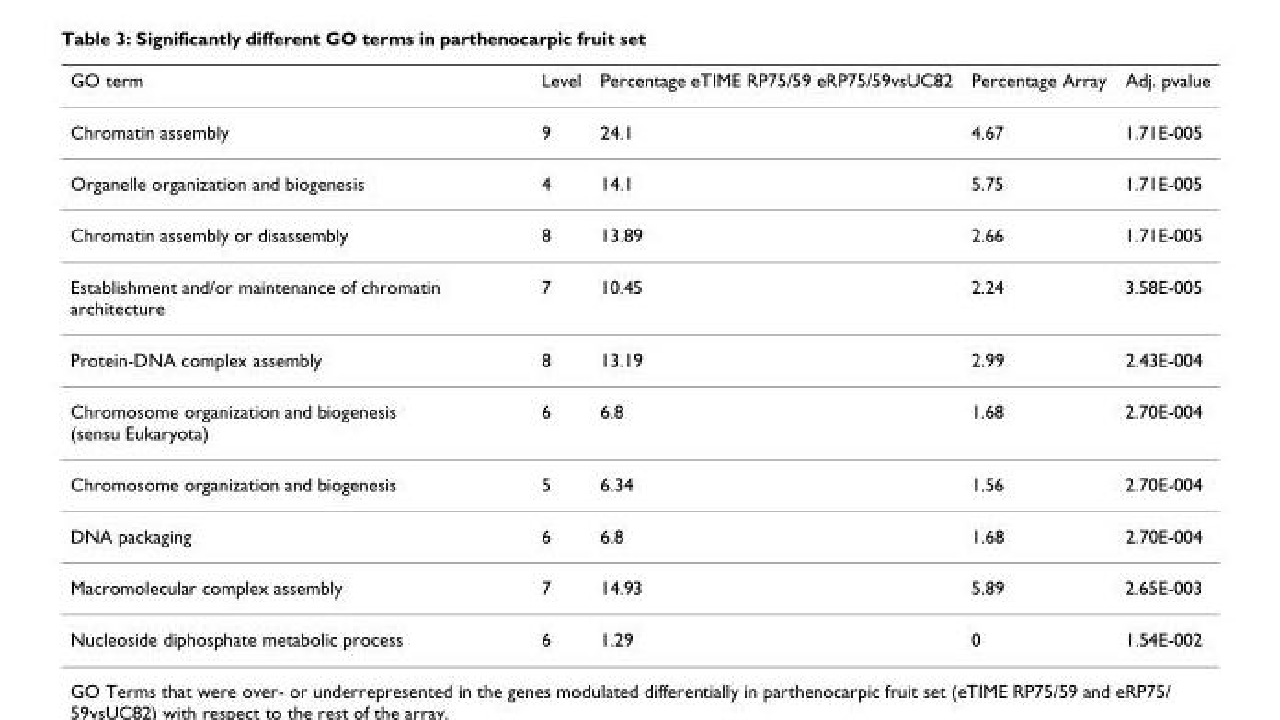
<table><thead><tr><td>GO term</td><td>Level</td><td>Percentage eTIME RP75/59 eRP75/59vsUC82</td><td>Percentage Array</td><td>Adj. pvalue</td></tr></thead><tbody><tr><td>Chromatin assembly</td><td>9</td><td>24.1</td><td>4.67</td><td>1.71E-005</td></tr><tr><td>Organelle organization and biogenesis</td><td>4</td><td>14.1</td><td>5.75</td><td>1.71E-005</td></tr><tr><td>Chromatin assembly or disassembly</td><td>8</td><td>13.89</td><td>2.66</td><td>1.71E-005</td></tr><tr><td>Establishment and/or maintenance of chromatin architecture</td><td>7</td><td>10.45</td><td>2.24</td><td>3.58E-005</td></tr><tr><td>Protein-DNA complex assembly</td><td>8</td><td>13.19</td><td>2.99</td><td>2.43E-004</td></tr><tr><td>Chromosome organization and biogenesis (sensu Eukaryota)</td><td>6</td><td>6.8</td><td>1.68</td><td>2.70E-004</td></tr><tr><td>Chromosome organization and biogenesis</td><td>5</td><td>6.34</td><td>1.56</td><td>2.70E-004</td></tr><tr><td>DNA packaging</td><td>6</td><td>6.8</td><td>1.68</td><td>2.70E-004</td></tr><tr><td>Macromolecular complex assembly</td><td>7</td><td>14.93</td><td>5.89</td><td>2.65E-003</td></tr><tr><td>Nucleoside diphosphate metabolic process</td><td>6</td><td>1.29</td><td>0</td><td>1.54E-002</td></tr></tbody></table>